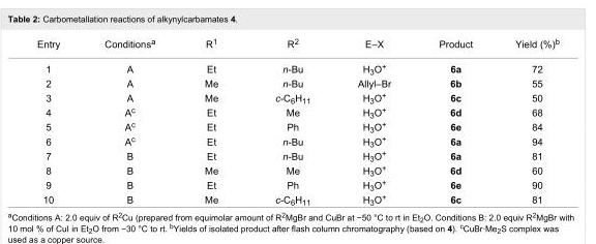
<table><tbody><tr><td>Entry</td><td>Conditions<sup>a</sup></td><td>R<sup>1</sup></td><td>R<sup>2</sup></td><td>E–X</td><td>Product</td><td>Yield (%)<sup>b</sup></td></tr><tr><td>1</td><td>A</td><td>Et</td><td>n-Bu</td><td>H<sub>3</sub>O<sup>+</sup></td><td>6a</td><td>72</td></tr><tr><td>2</td><td>A</td><td>Me</td><td>n-Bu</td><td>Allyl–Br</td><td>6b</td><td>55</td></tr><tr><td>3</td><td>A</td><td>Me</td><td>c-C<sub>6</sub>H<sub>11</sub></td><td>H<sub>3</sub>O<sup>+</sup></td><td>6c</td><td>50</td></tr><tr><td>4</td><td>A<sup>c</sup></td><td>Et</td><td>Me</td><td>H<sub>3</sub>O<sup>+</sup></td><td>6d</td><td>68</td></tr><tr><td>5</td><td>A<sup>c</sup></td><td>Et</td><td>Ph</td><td>H<sub>3</sub>O<sup>+</sup></td><td>6e</td><td>84</td></tr><tr><td>6</td><td>A<sup>c</sup></td><td>Et</td><td>n-Bu</td><td>H<sub>3</sub>O<sup>+</sup></td><td>6a</td><td>94</td></tr><tr><td>7</td><td>B</td><td>Et</td><td>n-Bu</td><td>H<sub>3</sub>O<sup>+</sup></td><td>6a</td><td>81</td></tr><tr><td>8</td><td>B</td><td>Me</td><td>Me</td><td>H<sub>3</sub>O<sup>+</sup></td><td>6d</td><td>60</td></tr><tr><td>9</td><td>B</td><td>Et</td><td>Ph</td><td>H<sub>3</sub>O<sup>+</sup></td><td>6e</td><td>90</td></tr><tr><td>10</td><td>B</td><td>Me</td><td>c-C<sub>6</sub>H<sub>11</sub></td><td>H<sub>3</sub>O<sup>+</sup></td><td>6c</td><td>81</td></tr></tbody></table>